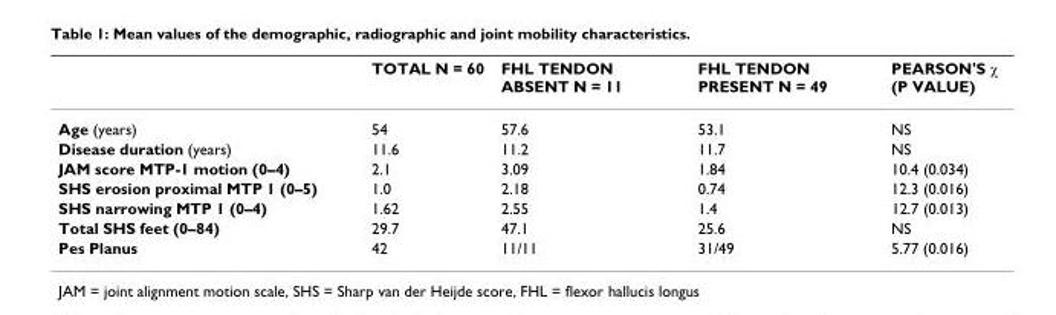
<table><thead><tr><td></td><td>TOTAL N = 60</td><td>FHL TENDON ABSENT N = 11</td><td>FHL TENDON PRESENT N = 49</td><td>PEARSON&#x27;S χ (P VALUE)</td></tr></thead><tbody><tr><td>Age (years)</td><td>54</td><td>57.6</td><td>53.1</td><td>NS</td></tr><tr><td>Disease duration (years)</td><td>11.6</td><td>11.2</td><td>11.7</td><td>NS</td></tr><tr><td>JAM score MTP-1 motion (0–4)</td><td>2.1</td><td>3.09</td><td>1.84</td><td>10.4 (0.034)</td></tr><tr><td>SHS erosion proximal MTP 1 (0–5)</td><td>1.0</td><td>2.18</td><td>0.74</td><td>12.3 (0.016)</td></tr><tr><td>SHS narrowing MTP 1 (0–4)</td><td>1.62</td><td>2.55</td><td>1.4</td><td>12.7 (0.013)</td></tr><tr><td>Total SHS feet (0–84)</td><td>29.7</td><td>47.1</td><td>25.6</td><td>NS</td></tr><tr><td>Pes Planus</td><td>42</td><td>11/11</td><td>31/49</td><td>5.77 (0.016)</td></tr></tbody></table>